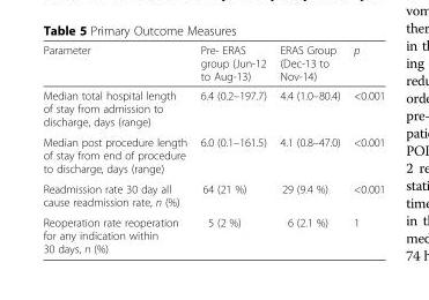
<table><thead><tr><td>Parameter</td><td>Pre- ERAS group (Jun-12 to Aug-13)</td><td>ERAS Group (Dec-13 to Nov-14)</td><td>p</td></tr></thead><tbody><tr><td>Median total hospital length of stay from admission to discharge, days (range)</td><td>6.4 (0.2–197.7)</td><td>4.4 (1.0–80.4)</td><td>&lt;0.001</td></tr><tr><td>Median post procedure length of stay from end of procedure to discharge, days (range)</td><td>6.0 (0.1–161.5)</td><td>4.1 (0.8–47.0)</td><td>&lt;0.001</td></tr><tr><td>Readmission rate 30 day all cause readmission rate, n (%)</td><td>64 (21 %)</td><td>29 (9.4 %)</td><td>&lt;0.001</td></tr><tr><td>Reoperation rate reoperation for any indication within 30 days, n (%)</td><td>5 (2 %)</td><td>6 (2.1 %)</td><td>1</td></tr></tbody></table>